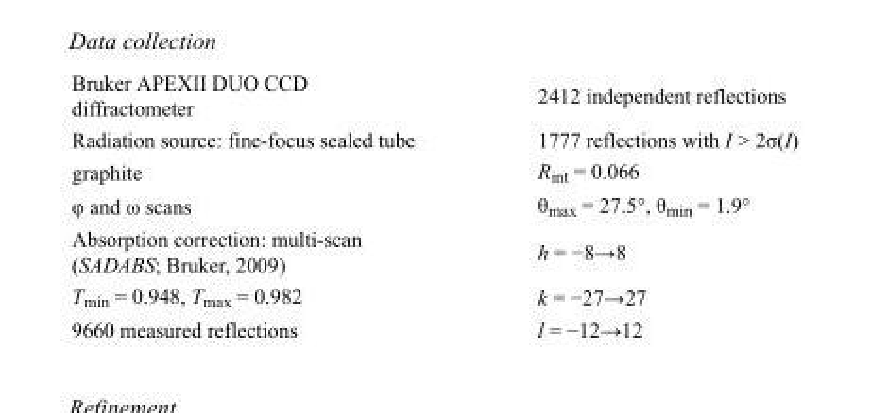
<table><tbody><tr><td>Bruker APEXII DUO CCD diffractometer</td><td>2412 independent reflections</td></tr><tr><td>Radiation source: fine-focus sealed tube</td><td>1777 reflections with I &gt; 2σ(I)</td></tr><tr><td>graphite</td><td>R<sub>int</sub> = 0.066</td></tr><tr><td>φ and ω scans</td><td>θ<sub>max</sub> = 27.5°, θ<sub>min</sub> = 1.9°</td></tr><tr><td>Absorption correction: multi-scan (SADABS; Bruker, 2009)</td><td>h = −8→8</td></tr><tr><td>T<sub>min</sub> = 0.948, T<sub>max</sub> = 0.982</td><td>k = −27→27</td></tr><tr><td>9660 measured reflections</td><td>l = −12→12</td></tr></tbody></table>